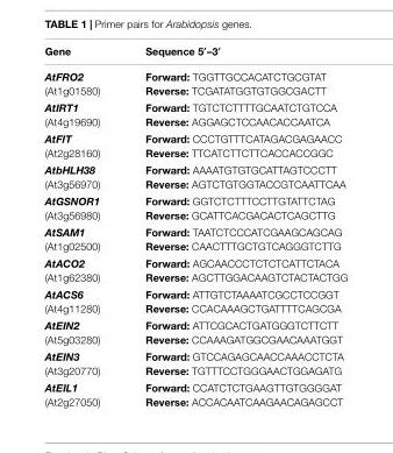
<table><thead><tr><td>Gene</td><td>Sequence 5′–3′</td></tr></thead><tbody><tr><td>AtFRO2 (At1g01580)</td><td>Forward: TGGTTGCCACATCTGCGTAT Reverse: TCGATATGGTGTGGCGACTT</td></tr><tr><td>AtIRT1 (At4g19690)</td><td>Forward: TGTCTCTTTTGCAATCTGTCCA Reverse: AGGAGCTCCAACACCAATCA</td></tr><tr><td>AtFIT (At2g28160)</td><td>Forward: CCCTGTTTCATAGACGAGAACC Reverse: TTCATCTTCTTCACCACCGGC</td></tr><tr><td>AtbHLH38 (At3g56970)</td><td>Forward: AAAATGTGTGCATTAGTCCCTT Reverse: AGTCTGTGGTACCGTCAATTCAA</td></tr><tr><td>AtGSNOR1 (At3g56980)</td><td>Forward: GGTCTCTTTCCTTGTATTCTAG Reverse: GCATTCACGACACTCAGCTTG</td></tr><tr><td>AtSAM1 (At1g02500)</td><td>Forward: TAATCTCCCATCGAAGCAGCAG Reverse: CAACTTTGCTGTCAGGGTCTTG</td></tr><tr><td>AtACO2 (At1g62380)</td><td>Forward: AGCAACCCTCTCTCATTCTACA Reverse: AGCTTGGACAAGTCTACTACTGG</td></tr><tr><td>AtACS6 (At4g11280)</td><td>Forward: ATTGTCTAAAATCGCCTCCGGT Reverse: CCACAAAGCTGATTTTCAGCGA</td></tr><tr><td>AtEIN2 (At5g03280)</td><td>Forward: ATTCGCACTGATGGGTCTTCTT Reverse: CCAAAGATGGCGAACAAATGGT</td></tr><tr><td>AtEIN3 (At3g20770)</td><td>Forward: GTCCAGAGCAACCAAACCTCTA Reverse: TGTTTCCTGGGAACTGGAGATG</td></tr><tr><td>AtEIL1 (At2g27050)</td><td>Forward: CCATCTCTGAAGTTGTGGGGAT Reverse: ACCACAATCAAGAACAGAGCCT</td></tr></tbody></table>